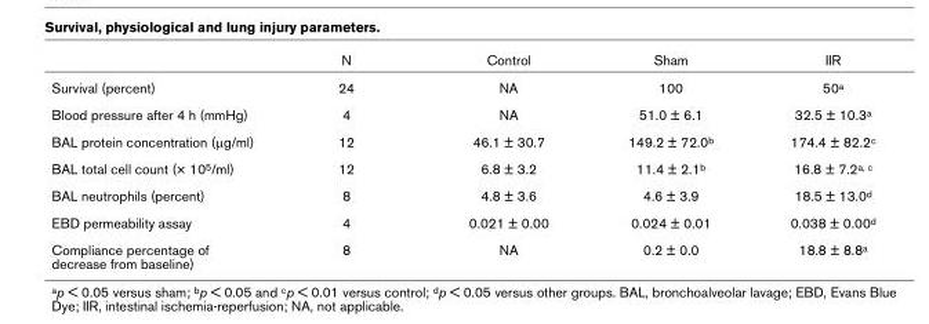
<table><thead><tr><td></td><td>N</td><td>Control</td><td>Sham</td><td>IIR</td></tr></thead><tbody><tr><td>Survival (percent)</td><td>24</td><td>NA</td><td>100</td><td>50a</td></tr><tr><td>Blood pressure after 4 h (mmHg)</td><td>4</td><td>NA</td><td>51.0 ± 6.1</td><td>32.5 ± 10.3a</td></tr><tr><td>BAL protein concentration (µg/ml)</td><td>12</td><td>46.1 ± 30.7</td><td>149.2 ± 72.0b</td><td>174.4 ± 82.2c</td></tr><tr><td>BAL total cell count (× 105/ml)</td><td>12</td><td>6.8 ± 3.2</td><td>11.4 ± 2.1b</td><td>16.8 ± 7.2a, c</td></tr><tr><td>BAL neutrophils (percent)</td><td>8</td><td>4.8 ± 3.6</td><td>4.6 ± 3.9</td><td>18.5 ± 13.0d</td></tr><tr><td>EBD permeability assay</td><td>4</td><td>0.021 ± 0.00</td><td>0.024 ± 0.01</td><td>0.038 ± 0.00d</td></tr><tr><td>Compliance percentage of decrease from baseline)</td><td>8</td><td>NA</td><td>0.2 ± 0.0</td><td>18.8 ± 8.8a</td></tr></tbody></table>